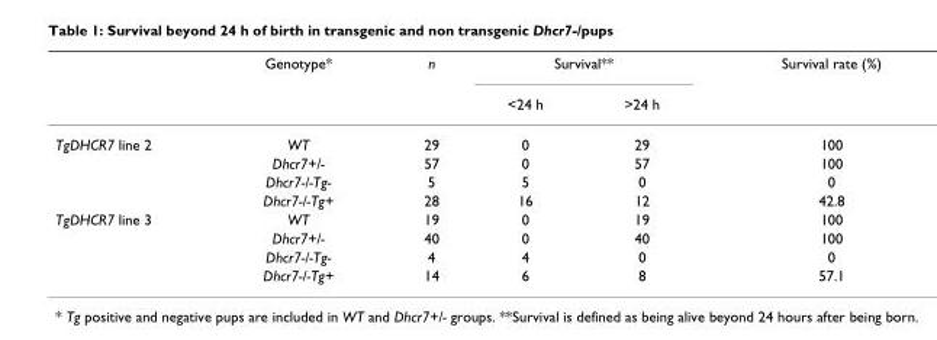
<table><thead><tr><td rowspan="2"></td><td rowspan="2">Genotype*</td><td rowspan="2">n</td><td colspan="2">Survival**</td><td rowspan="2">Survival rate (%)</td></tr><tr><td>&lt;24 h</td><td>&gt;24 h</td></tr></thead><tbody><tr><td rowspan="4">TgDHCR7 line 2</td><td>WT</td><td>29</td><td>0</td><td>29</td><td>100</td></tr><tr><td>Dhcr7+/-</td><td>57</td><td>0</td><td>57</td><td>100</td></tr><tr><td>Dhcr7-/-Tg-</td><td>5</td><td>5</td><td>0</td><td>0</td></tr><tr><td>Dhcr7-/-Tg+</td><td>28</td><td>16</td><td>12</td><td>42.8</td></tr><tr><td rowspan="4">TgDHCR7 line 3</td><td>WT</td><td>19</td><td>0</td><td>19</td><td>100</td></tr><tr><td>Dhcr7+/-</td><td>40</td><td>0</td><td>40</td><td>100</td></tr><tr><td>Dhcr7-/-Tg-</td><td>4</td><td>4</td><td>0</td><td>0</td></tr><tr><td>Dhcr7-/-Tg+</td><td>14</td><td>6</td><td>8</td><td>57.1</td></tr></tbody></table>